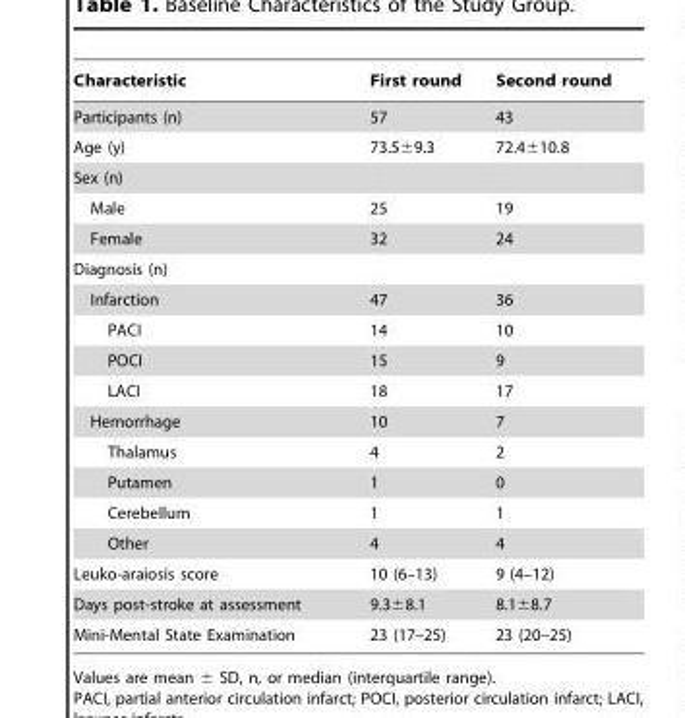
<table><thead><tr><td>Characteristic</td><td>First round</td><td>Second round</td></tr></thead><tbody><tr><td>Participants (n)</td><td>57</td><td>43</td></tr><tr><td>Age (y)</td><td>73.5±9.3</td><td>72.4±10.8</td></tr><tr><td colspan="3">Sex (n)</td></tr><tr><td>Male</td><td>25</td><td>19</td></tr><tr><td>Female</td><td>32</td><td>24</td></tr><tr><td colspan="3">Diagnosis (n)</td></tr><tr><td>Infarction</td><td>47</td><td>36</td></tr><tr><td>PACI</td><td>14</td><td>10</td></tr><tr><td>POCI</td><td>15</td><td>9</td></tr><tr><td>LACI</td><td>18</td><td>17</td></tr><tr><td>Hemorrhage</td><td>10</td><td>7</td></tr><tr><td>Thalamus</td><td>4</td><td>2</td></tr><tr><td>Putamen</td><td>1</td><td>0</td></tr><tr><td>Cerebellum</td><td>1</td><td>1</td></tr><tr><td>Other</td><td>4</td><td>4</td></tr><tr><td>Leuko-araiosis score</td><td>10 (6–13)</td><td>9 (4–12)</td></tr><tr><td>Days post-stroke at assessment</td><td>9.3±8.1</td><td>8.1±8.7</td></tr><tr><td>Mini-Mental State Examination</td><td>23 (17–25)</td><td>23 (20–25)</td></tr></tbody></table>